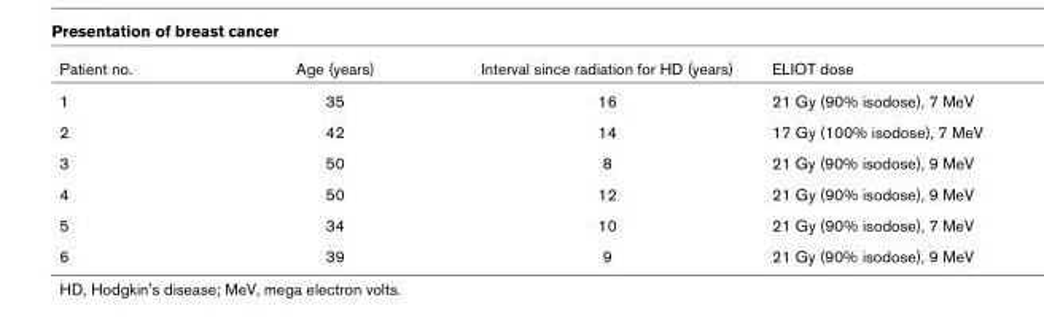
<table><thead><tr><td>Patient no.</td><td>Age (years)</td><td>Interval since radiation for HD (years)</td><td>ELIOT dose</td></tr></thead><tbody><tr><td>1</td><td>35</td><td>16</td><td>21 Gy (90% isodose), 7 MeV</td></tr><tr><td>2</td><td>42</td><td>14</td><td>17 Gy (100% isodose), 7 MeV</td></tr><tr><td>3</td><td>50</td><td>8</td><td>21 Gy (90% isodose), 9 MeV</td></tr><tr><td>4</td><td>50</td><td>12</td><td>21 Gy (90% isodose), 9 MeV</td></tr><tr><td>5</td><td>34</td><td>10</td><td>21 Gy (90% isodose), 7 MeV</td></tr><tr><td>6</td><td>39</td><td>9</td><td>21 Gy (90% isodose), 9 MeV</td></tr></tbody></table>